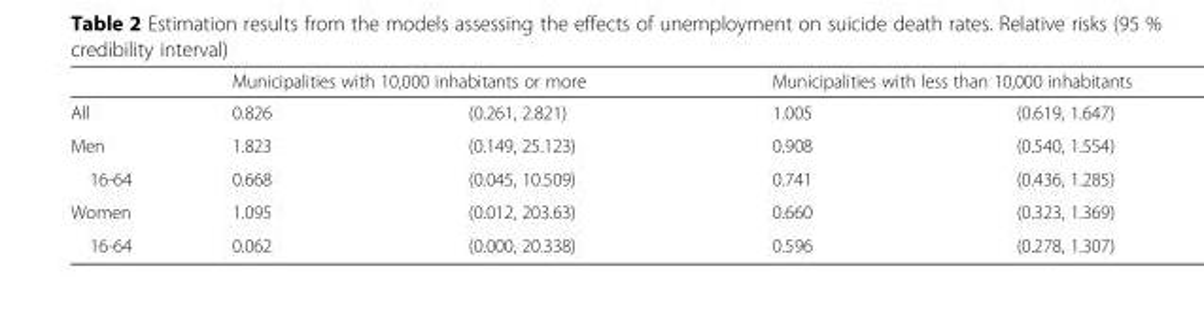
<table><thead><tr><td rowspan="2">All</td><td colspan="2">Municipalities with 10,000 inhabitants or more</td><td colspan="2">Municipalities with less than 10,000 inhabitants</td></tr><tr><td>0.826</td><td>(0.261, 2.821)</td><td>1.005</td><td>(0.619, 1.647)</td></tr></thead><tbody><tr><td>Men</td><td>1.823</td><td>(0.149, 25.123)</td><td>0.908</td><td>(0.540, 1.554)</td></tr><tr><td>16-64</td><td>0.668</td><td>(0.045, 10.509)</td><td>0.741</td><td>(0.436, 1.285)</td></tr><tr><td>Women</td><td>1.095</td><td>(0.012, 203.63)</td><td>0.660</td><td>(0.323, 1.369)</td></tr><tr><td>16-64</td><td>0.062</td><td>(0.000, 20.338)</td><td>0.596</td><td>(0.278, 1.307)</td></tr></tbody></table>